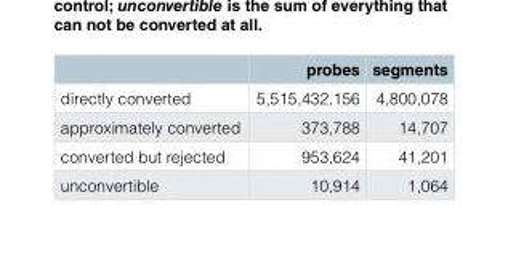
<table><thead><tr><td></td><td>probes</td><td>segments</td></tr></thead><tbody><tr><td>directly converted</td><td>5,515,432,156</td><td>4,800,078</td></tr><tr><td>approximately converted</td><td>373,788</td><td>14,707</td></tr><tr><td>converted but rejected</td><td>953,624</td><td>41,201</td></tr><tr><td>unconvertible</td><td>10,914</td><td>1,064</td></tr></tbody></table>